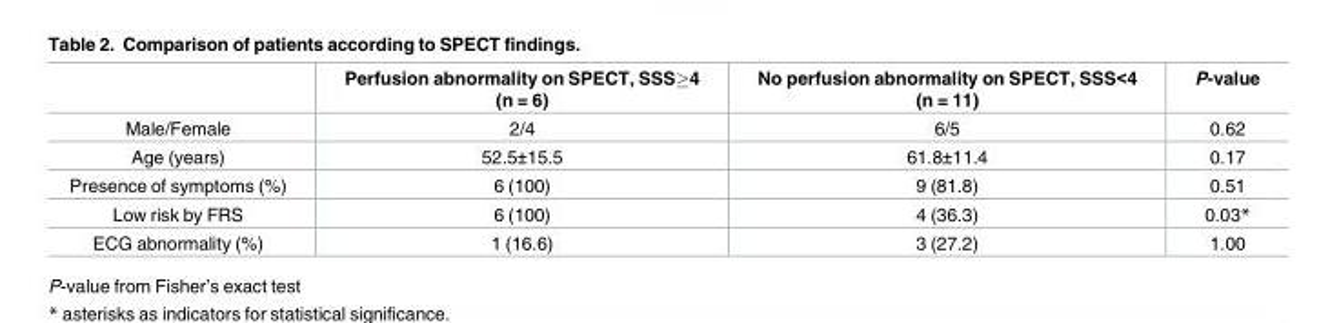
<table><thead><tr><td></td><td>Perfusion abnormality on SPECT, SSS≥4 (n = 6)</td><td>No perfusion abnormality on SPECT, SSS&lt;4 (n = 11)</td><td>P-value</td></tr></thead><tbody><tr><td>Male/Female</td><td>2/4</td><td>6/5</td><td>0.62</td></tr><tr><td>Age (years)</td><td>52.5±15.5</td><td>61.8±11.4</td><td>0.17</td></tr><tr><td>Presence of symptoms (%)</td><td>6 (100)</td><td>9 (81.8)</td><td>0.51</td></tr><tr><td>Low risk by FRS</td><td>6 (100)</td><td>4 (36.3)</td><td>0.03*</td></tr><tr><td>ECG abnormality (%)</td><td>1 (16.6)</td><td>3 (27.2)</td><td>1.00</td></tr></tbody></table>